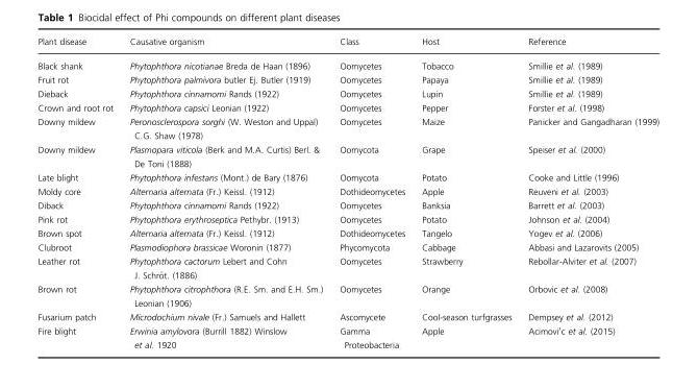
<table><thead><tr><td>Plant disease</td><td>Causative organism</td><td>Class</td><td>Host</td><td>Reference</td></tr></thead><tbody><tr><td>Black shank</td><td>Phytophthora nicotianae Breda de Haan (1896)</td><td>Oomycetes</td><td>Tobacco</td><td>Smillie et al. (1989)</td></tr><tr><td>Fruit rot</td><td>Phytophthora palmivora butler Ej. Butler (1919)</td><td>Oomycetes</td><td>Papaya</td><td>Smillie et al. (1989)</td></tr><tr><td>Dieback</td><td>Phytophthora cinnamomi Rands (1922)</td><td>Oomycetes</td><td>Lupin</td><td>Smillie et al. (1989)</td></tr><tr><td>Crown and root rot</td><td>Phytophthora capsici Leonian (1922)</td><td>Oomycetes</td><td>Pepper</td><td>Forster et al. (1998)</td></tr><tr><td>Downy mildew</td><td>Peronosclerospora sorghi (W. Weston and Uppal) C.G. Shaw (1978)</td><td>Oomycetes</td><td>Maize</td><td>Panicker and Gangadharan (1999)</td></tr><tr><td>Downy mildew</td><td>Plasmopara viticola (Berk and M.A. Curtis) Berl. &amp; De Toni (1888)</td><td>Oomycota</td><td>Grape</td><td>Speiser et al. (2000)</td></tr><tr><td>Late blight</td><td>Phytophthora infestans (Mont.) de Bary (1876)</td><td>Oomycota</td><td>Potato</td><td>Cooke and Little (1996)</td></tr><tr><td>Moldy core</td><td>Alternaria alternata (Fr.) Keissl. (1912)</td><td>Dothideomycetes</td><td>Apple</td><td>Reuveni et al. (2003)</td></tr><tr><td>Diback</td><td>Phytophthora cinnamomi Rands (1922)</td><td>Oomycetes</td><td>Banksia</td><td>Barrett et al. (2003)</td></tr><tr><td>Pink rot</td><td>Phytophthora erythroseptica Pethybr. (1913)</td><td>Oomycetes</td><td>Potato</td><td>Johnson et al. (2004)</td></tr><tr><td>Brown spot</td><td>Alternaria alternata (Fr.) Keissl. (1912)</td><td>Dothideomycetes</td><td>Tangelo</td><td>Yogev et al. (2006)</td></tr><tr><td>Clubroot</td><td>Plasmodiophora brassicae Woronin (1877)</td><td>Phycomycota</td><td>Cabbage</td><td>Abbasi and Lazarovits (2005)</td></tr><tr><td>Leather rot</td><td>Phytophthora cactorum Lebert and Cohn J. Schr€ot. (1886)</td><td>Oomycetes</td><td>Strawberry</td><td>Rebollar-Alviter et al. (2007)</td></tr><tr><td>Brown rot</td><td>Phytophthora citrophthora (R.E. Sm. and E.H. Sm.) Leonian (1906)</td><td>Oomycetes</td><td>Orange</td><td>Orbovic et al. (2008)</td></tr><tr><td>Fusarium patch</td><td>Microdochium nivale (Fr.) Samuels and Hallett</td><td>Ascomycete</td><td>Cool-season turfgrasses</td><td>Dempsey et al. (2012)</td></tr><tr><td>Fire blight</td><td>Erwinia amylovora (Burrill 1882) Winslow et al. 1920</td><td>Gamma Proteobacteria</td><td>Apple</td><td>Acimovi′c et al. (2015)</td></tr></tbody></table>